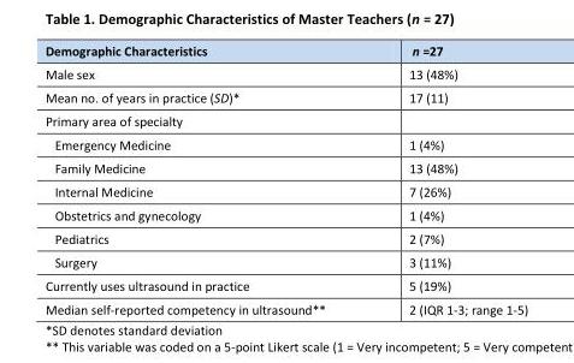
<table><thead><tr><td>Demographic Characteristics</td><td>n =27</td></tr></thead><tbody><tr><td>Male sex</td><td>13 (48%)</td></tr><tr><td>Mean no. of years in practice (SD)*</td><td>17 (11)</td></tr><tr><td colspan="2">Primary area of specialty</td></tr><tr><td>Emergency Medicine</td><td>1 (4%)</td></tr><tr><td>Family Medicine</td><td>13 (48%)</td></tr><tr><td>Internal Medicine</td><td>7 (26%)</td></tr><tr><td>Obstetrics and gynecology</td><td>1 (4%)</td></tr><tr><td>Pediatrics</td><td>2 (7%)</td></tr><tr><td>Surgery</td><td>3 (11%)</td></tr><tr><td>Currently uses ultrasound in practice</td><td>5 (19%)</td></tr><tr><td>Median self-reported competency in ultrasound**</td><td>2 (IQR 1-3; range 1-5)</td></tr></tbody></table>